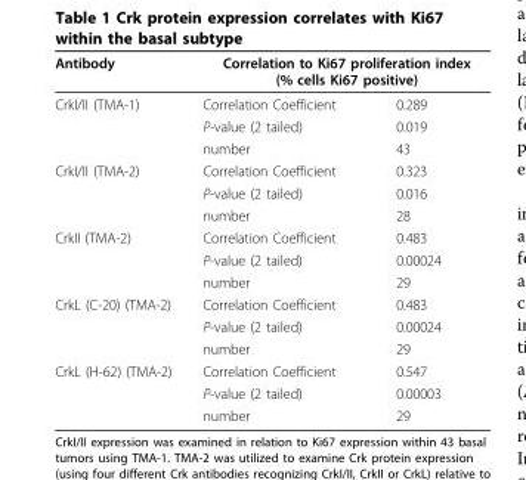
<table><thead><tr><td rowspan="2">Antibody CrkI/II (TMA-1)</td><td colspan="2">Correlation to Ki67 proliferation index (% cells Ki67 positive)</td></tr><tr><td>Correlation Coefficient</td><td>0.289</td></tr></thead><tbody><tr><td></td><td>P-value (2 tailed)</td><td>0.019</td></tr><tr><td></td><td>number</td><td>43</td></tr><tr><td rowspan="3">CrkI/II (TMA-2)</td><td>Correlation Coefficient</td><td>0.323</td></tr><tr><td>P-value (2 tailed)</td><td>0.016</td></tr><tr><td>number</td><td>28</td></tr><tr><td rowspan="3">CrkII (TMA-2)</td><td>Correlation Coefficient</td><td>0.483</td></tr><tr><td>P-value (2 tailed)</td><td>0.00024</td></tr><tr><td>number</td><td>29</td></tr><tr><td rowspan="3">CrkL (C-20) (TMA-2)</td><td>Correlation Coefficient</td><td>0.483</td></tr><tr><td>P-value (2 tailed)</td><td>0.00024</td></tr><tr><td>number</td><td>29</td></tr><tr><td rowspan="3">CrkL (H-62) (TMA-2)</td><td>Correlation Coefficient</td><td>0.547</td></tr><tr><td>P-value (2 tailed)</td><td>0.00003</td></tr><tr><td>number</td><td>29</td></tr></tbody></table>